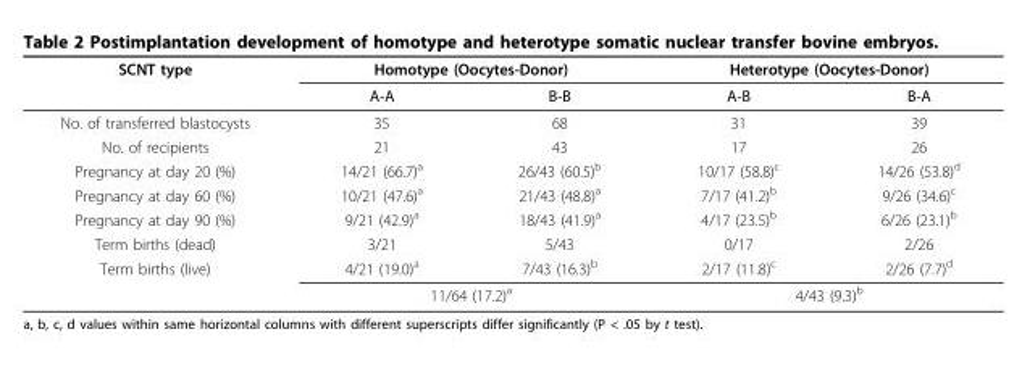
<table><thead><tr><td rowspan="2">SCNT type</td><td colspan="2">Homotype (Oocytes-Donor)</td><td colspan="2">Heterotype (Oocytes-Donor)</td></tr><tr><td>A-A</td><td>B-B</td><td>A-B</td><td>B-A</td></tr></thead><tbody><tr><td>No. of transferred blastocysts</td><td>35</td><td>68</td><td>31</td><td>39</td></tr><tr><td>No. of recipients</td><td>21</td><td>43</td><td>17</td><td>26</td></tr><tr><td>Pregnancy at day 20 (%)</td><td>14/21 (66.7)<sup>a</sup></td><td>26/43 (60.5)<sup>b</sup></td><td>10/17 (58.8)<sup>c</sup></td><td>14/26 (53.8)<sup>d</sup></td></tr><tr><td>Pregnancy at day 60 (%)</td><td>10/21 (47.6)<sup>a</sup></td><td>21/43 (48.8)<sup>a</sup></td><td>7/17 (41.2)<sup>b</sup></td><td>9/26 (34.6)<sup>c</sup></td></tr><tr><td>Pregnancy at day 90 (%)</td><td>9/21 (42.9)<sup>a</sup></td><td>18/43 (41.9)<sup>a</sup></td><td>4/17 (23.5)<sup>b</sup></td><td>6/26 (23.1)<sup>b</sup></td></tr><tr><td>Term births (dead)</td><td>3/21</td><td>5/43</td><td>0/17</td><td>2/26</td></tr><tr><td rowspan="2">Term births (live)</td><td>4/21 (19.0)<sup>a</sup></td><td>7/43 (16.3)<sup>b</sup></td><td>2/17 (11.8)<sup>c</sup></td><td>2/26 (7.7)<sup>d</sup></td></tr><tr><td colspan="2">11/64 (17.2)<sup>a</sup></td><td colspan="2">4/43 (9.3)<sup>b</sup></td></tr></tbody></table>